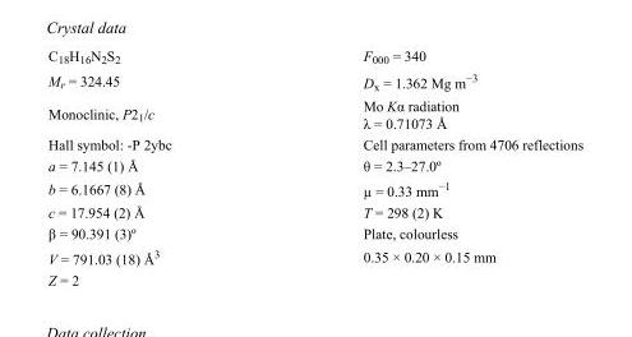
<table><tbody><tr><td>C<sub>18</sub>H<sub>16</sub>N<sub>2</sub>S<sub>2</sub></td><td>F<sub>000</sub> = 340</td></tr><tr><td>M<sub>r</sub> = 324.45</td><td>D<sub>x</sub> = 1.362 Mg m<sup>−3</sup></td></tr><tr><td>Monoclinic, P2<sub>1</sub>/c</td><td>Mo Kα radiation λ = 0.71073 Å</td></tr><tr><td>Hall symbol: -P 2ybc</td><td>Cell parameters from 4706 reflections</td></tr><tr><td>a = 7.145 (1) Å</td><td>θ = 2.3–27.0º</td></tr><tr><td>b = 6.1667 (8) Å</td><td>µ = 0.33 mm<sup>−1</sup></td></tr><tr><td>c = 17.954 (2) Å</td><td>T = 298 (2) K</td></tr><tr><td>β = 90.391 (3)º</td><td>Plate, colourless</td></tr><tr><td>V = 791.03 (18) Å<sup>3</sup></td><td>0.35 × 0.20 × 0.15 mm</td></tr><tr><td>Z = 2</td><td></td></tr></tbody></table>